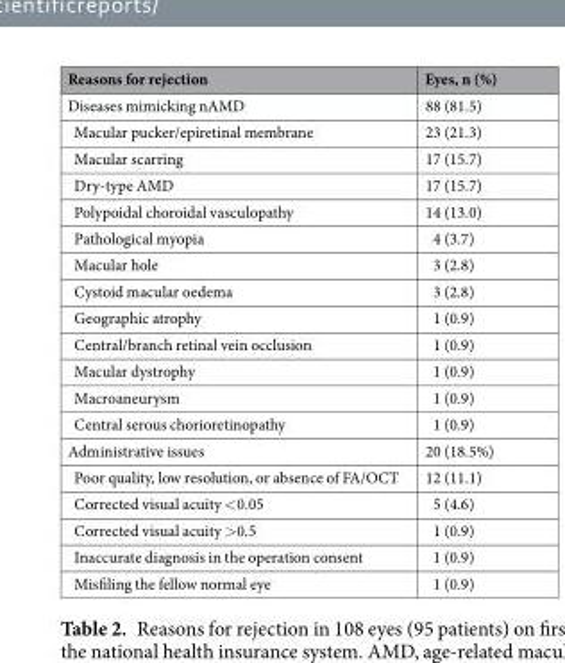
<table><thead><tr><td>Reasons for rejection</td><td>Eyes, n (%)</td></tr></thead><tbody><tr><td>Diseases mimicking nAMD</td><td>88 (81.5)</td></tr><tr><td>Macular pucker/epiretinal membrane</td><td>23 (21.3)</td></tr><tr><td>Macular scarring</td><td>17 (15.7)</td></tr><tr><td>Dry-type AMD</td><td>17 (15.7)</td></tr><tr><td>Polypoidal choroidal vasculopathy</td><td>14 (13.0)</td></tr><tr><td>Pathological myopia</td><td>4 (3.7)</td></tr><tr><td>Macular hole</td><td>3 (2.8)</td></tr><tr><td>Cystoid macular oedema</td><td>3 (2.8)</td></tr><tr><td>Geographic atrophy</td><td>1 (0.9)</td></tr><tr><td>Central/branch retinal vein occlusion</td><td>1 (0.9)</td></tr><tr><td>Macular dystrophy</td><td>1 (0.9)</td></tr><tr><td>Macroaneurysm</td><td>1 (0.9)</td></tr><tr><td>Central serous chorioretinopathy</td><td>1 (0.9)</td></tr><tr><td>Administrative issues</td><td>20 (18.5%)</td></tr><tr><td>Poor quality, low resolution, or absence of FA/OCT</td><td>12 (11.1)</td></tr><tr><td>Corrected visual acuity &lt;0.05</td><td>5 (4.6)</td></tr><tr><td>Corrected visual acuity &gt;0.5</td><td>1 (0.9)</td></tr><tr><td>Inaccurate diagnosis in the operation consent</td><td>1 (0.9)</td></tr><tr><td>Misfiling the fellow normal eye</td><td>1 (0.9)</td></tr></tbody></table>